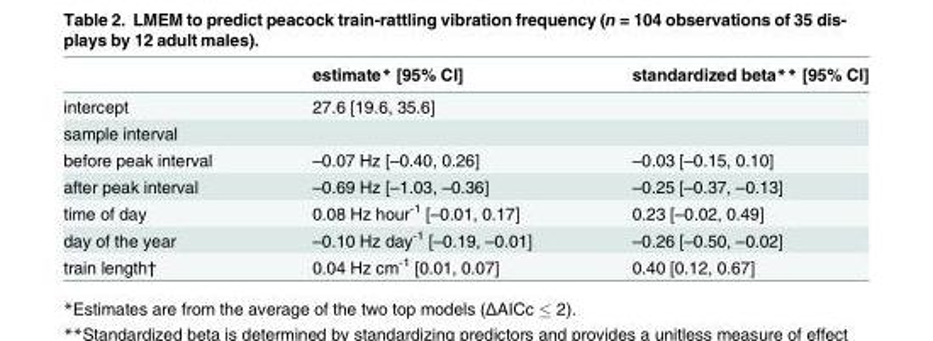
<table><thead><tr><td></td><td>estimate* [95% CI]</td><td>standardized beta** [95% CI]</td></tr></thead><tbody><tr><td>intercept</td><td>27.6 [19.6, 35.6]</td><td></td></tr><tr><td colspan="3">sample interval</td></tr><tr><td>before peak interval</td><td>–0.07 Hz [–0.40, 0.26]</td><td>–0.03 [–0.15, 0.10]</td></tr><tr><td>after peak interval</td><td>–0.69 Hz [–1.03, –0.36]</td><td>–0.25 [–0.37, –0.13]</td></tr><tr><td>time of day</td><td>0.08 Hz hour<sup>-1</sup> [–0.01, 0.17]</td><td>0.23 [–0.02, 0.49]</td></tr><tr><td>day of the year</td><td>–0.10 Hz day<sup>-1</sup> [–0.19, –0.01]</td><td>–0.26 [–0.50, –0.02]</td></tr><tr><td>train length†</td><td>0.04 Hz cm<sup>-1</sup> [0.01, 0.07]</td><td>0.40 [0.12, 0.67]</td></tr></tbody></table>